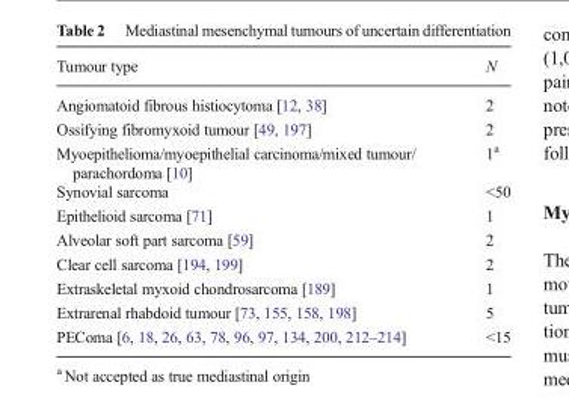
<table><thead><tr><td>Tumour type</td><td>N</td></tr></thead><tbody><tr><td>Angiomatoid fibrous histiocytoma [12, 38]</td><td>2</td></tr><tr><td>Ossifying fibromyxoid tumour [49, 197]</td><td>2</td></tr><tr><td>Myoepithelioma/myoepithelial carcinoma/mixed tumour/ parachordoma [10]</td><td>1<sup>a</sup></td></tr><tr><td>Synovial sarcoma</td><td>&lt;50</td></tr><tr><td>Epithelioid sarcoma [71]</td><td>1</td></tr><tr><td>Alveolar soft part sarcoma [59]</td><td>2</td></tr><tr><td>Clear cell sarcoma [194, 199]</td><td>2</td></tr><tr><td>Extraskeletal myxoid chondrosarcoma [189]</td><td>1</td></tr><tr><td>Extrarenal rhabdoid tumour [73, 155, 158, 198]</td><td>5</td></tr><tr><td>PEComa [6, 18, 26, 63, 78, 96, 97, 134, 200, 212–214]</td><td>&lt;15</td></tr></tbody></table>